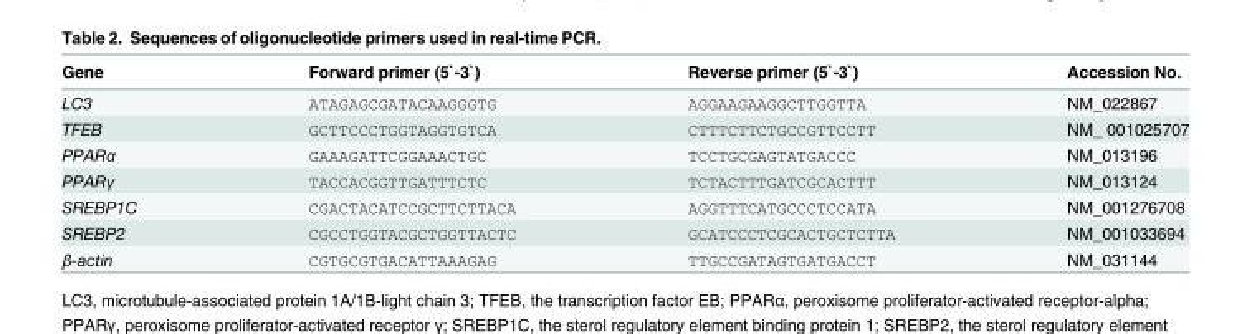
<table><thead><tr><td>Gene</td><td>Forward primer (5`-3`)</td><td>Reverse primer (5`-3`)</td><td>Accession No.</td></tr></thead><tbody><tr><td>LC3</td><td>ATAGAGCGATACAAGGGTG</td><td>AGGAAGAAGGCTTGGTTA</td><td>NM_022867</td></tr><tr><td>TFEB</td><td>GCTTCCCTGGTAGGTGTCA</td><td>CTTTCTTCTGCCGTTCCTT</td><td>NM_ 001025707</td></tr><tr><td>PPARα</td><td>GAAAGATTCGGAAACTGC</td><td>TCCTGCGAGTATGACCC</td><td>NM_013196</td></tr><tr><td>PPARγ</td><td>TACCACGGTTGATTTCTC</td><td>TCTACTTTGATCGCACTTT</td><td>NM_013124</td></tr><tr><td>SREBP1C</td><td>CGACTACATCCGCTTCTTACA</td><td>AGGTTTCATGCCCTCCATA</td><td>NM_001276708</td></tr><tr><td>SREBP2</td><td>CGCCTGGTACGCTGGTTACTC</td><td>GCATCCCTCGCACTGCTCTTA</td><td>NM_001033694</td></tr><tr><td>β-actin</td><td>CGTGCGTGACATTAAAGAG</td><td>TTGCCGATAGTGATGACCT</td><td>NM_031144</td></tr></tbody></table>